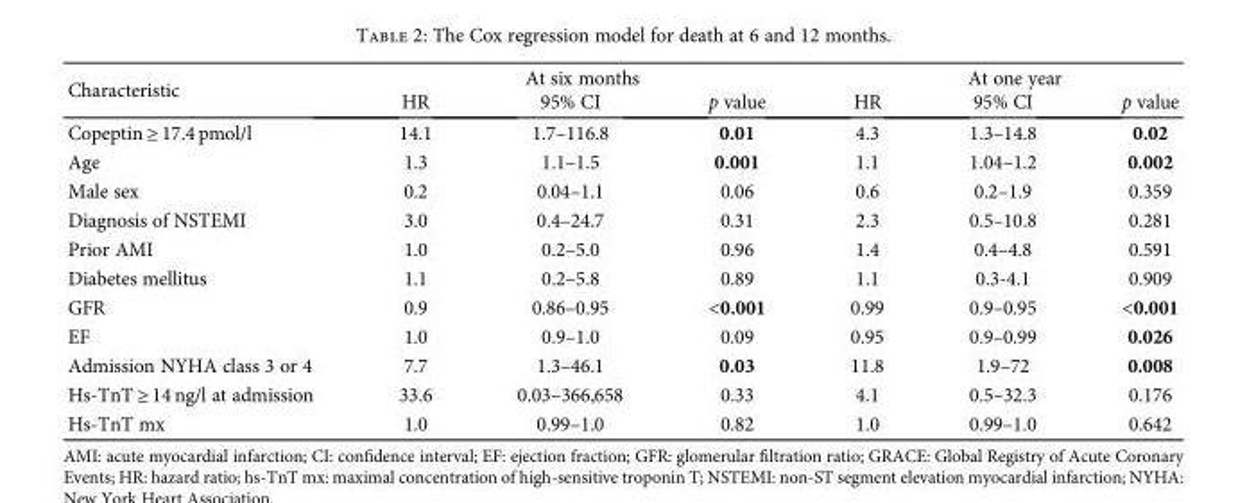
<table><thead><tr><td rowspan="2">Characteristic</td><td colspan="3">At six months</td><td colspan="3">At one year</td></tr><tr><td>HR</td><td>95% CI</td><td>p value</td><td>HR</td><td>95% CI</td><td>p value</td></tr></thead><tbody><tr><td>Copeptin ≥ 17.4 pmol/l</td><td>14.1</td><td>1.7–116.8</td><td>0.01</td><td>4.3</td><td>1.3–14.8</td><td>0.02</td></tr><tr><td>Age</td><td>1.3</td><td>1.1–1.5</td><td>0.001</td><td>1.1</td><td>1.04–1.2</td><td>0.002</td></tr><tr><td>Male sex</td><td>0.2</td><td>0.04–1.1</td><td>0.06</td><td>0.6</td><td>0.2–1.9</td><td>0.359</td></tr><tr><td>Diagnosis of NSTEMI</td><td>3.0</td><td>0.4–24.7</td><td>0.31</td><td>2.3</td><td>0.5–10.8</td><td>0.281</td></tr><tr><td>Prior AMI</td><td>1.0</td><td>0.2–5.0</td><td>0.96</td><td>1.4</td><td>0.4–4.8</td><td>0.591</td></tr><tr><td>Diabetes mellitus</td><td>1.1</td><td>0.2–5.8</td><td>0.89</td><td>1.1</td><td>0.3-4.1</td><td>0.909</td></tr><tr><td>GFR</td><td>0.9</td><td>0.86–0.95</td><td>&lt;0.001</td><td>0.99</td><td>0.9–0.95</td><td>&lt;0.001</td></tr><tr><td>EF</td><td>1.0</td><td>0.9–1.0</td><td>0.09</td><td>0.95</td><td>0.9–0.99</td><td>0.026</td></tr><tr><td>Admission NYHA class 3 or 4</td><td>7.7</td><td>1.3–46.1</td><td>0.03</td><td>11.8</td><td>1.9–72</td><td>0.008</td></tr><tr><td>Hs-TnT ≥ 14 ng/l at admission</td><td>33.6</td><td>0.03–366,658</td><td>0.33</td><td>4.1</td><td>0.5–32.3</td><td>0.176</td></tr><tr><td>Hs-TnT mx</td><td>1.0</td><td>0.99–1.0</td><td>0.82</td><td>1.0</td><td>0.99–1.0</td><td>0.642</td></tr></tbody></table>